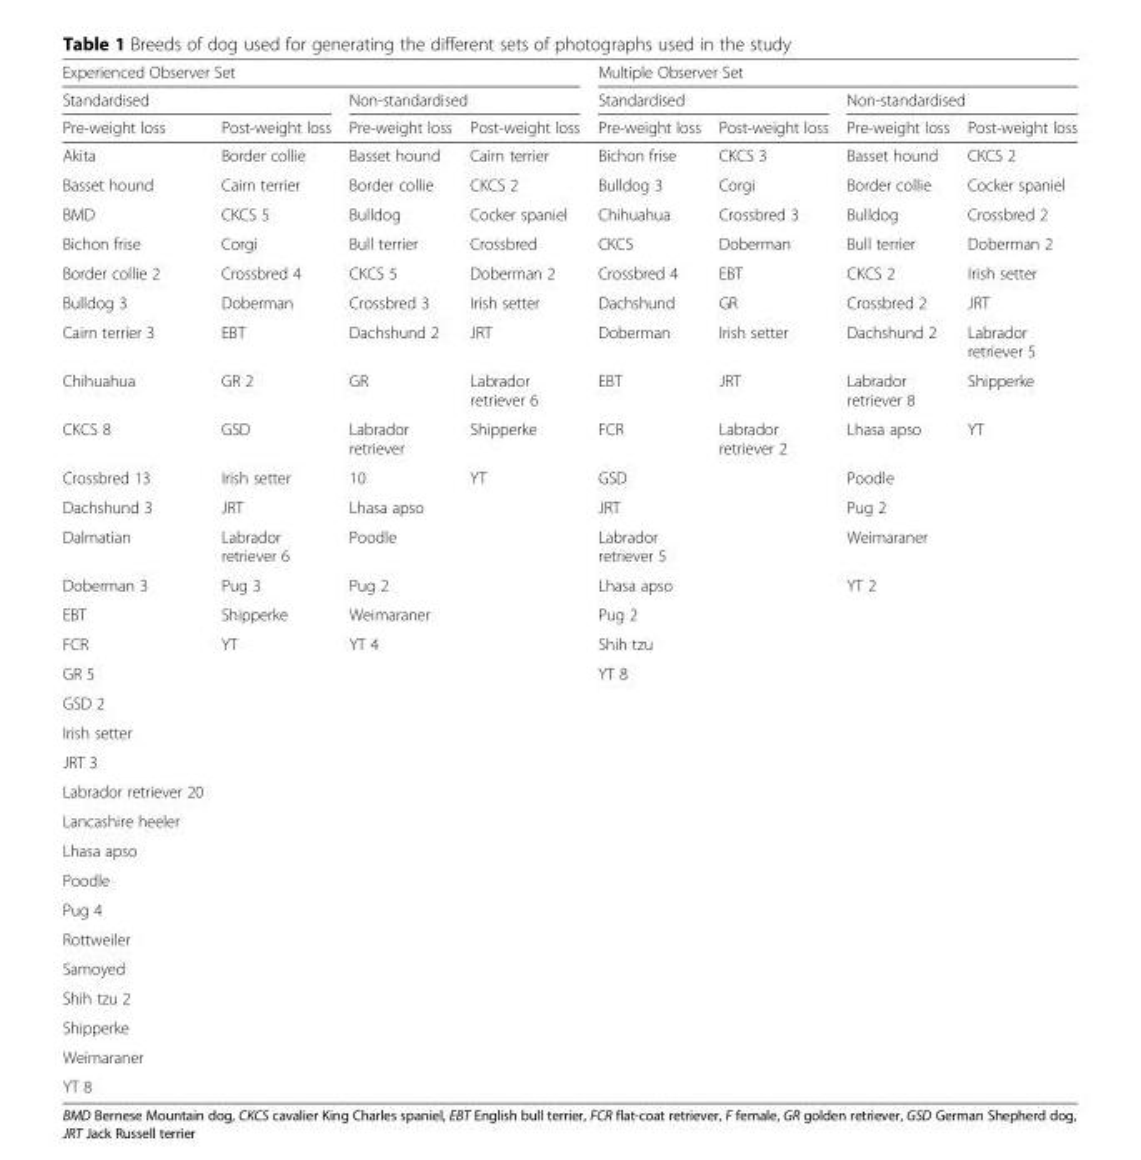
<table><thead><tr><td colspan="4">Experienced Observer Set</td><td colspan="4">Multiple Observer Set</td></tr><tr><td colspan="2">Standardised</td><td colspan="2">Non-standardised</td><td colspan="2">Standardised</td><td colspan="2">Non-standardised</td></tr><tr><td>Pre-weight loss</td><td>Post-weight loss</td><td>Pre-weight loss</td><td>Post-weight loss</td><td>Pre-weight loss</td><td>Post-weight loss</td><td>Pre-weight loss</td><td>Post-weight loss</td></tr></thead><tbody><tr><td>Akita</td><td>Border collie</td><td>Basset hound</td><td>Cairn terrier</td><td>Bichon frise</td><td>CKCS 3</td><td>Basset hound</td><td>CKCS 2</td></tr><tr><td>Basset hound</td><td>Cairn terrier</td><td>Border collie</td><td>CKCS 2</td><td>Bulldog 3</td><td>Corgi</td><td>Border collie</td><td>Cocker spaniel</td></tr><tr><td>BMD</td><td>CKCS 5</td><td>Bulldog</td><td>Cocker spaniel</td><td>Chihuahua</td><td>Crossbred 3</td><td>Bulldog</td><td>Crossbred 2</td></tr><tr><td>Bichon frise</td><td>Corgi</td><td>Bull terrier</td><td>Crossbred</td><td>CKCS</td><td>Doberman</td><td>Bull terrier</td><td>Doberman 2</td></tr><tr><td>Border collie 2</td><td>Crossbred 4</td><td>CKCS 5</td><td>Doberman 2</td><td>Crossbred 4</td><td>EBT</td><td>CKCS 2</td><td>Irish setter</td></tr><tr><td>Bulldog 3</td><td>Doberman</td><td>Crossbred 3</td><td>Irish setter</td><td>Dachshund</td><td>GR</td><td>Crossbred 2</td><td>JRT</td></tr><tr><td>Cairn terrier 3</td><td>EBT</td><td>Dachshund 2</td><td>JRT</td><td>Doberman</td><td>Irish setter</td><td>Dachshund 2</td><td>Labrador retriever 5</td></tr><tr><td>Chihuahua</td><td>GR 2</td><td>GR</td><td>Labrador retriever 6</td><td>EBT</td><td>JRT</td><td>Labrador retriever 8</td><td>Shipperke</td></tr><tr><td>CKCS 8</td><td>GSD</td><td>Labrador retriever</td><td>Shipperke</td><td>FCR</td><td>Labrador retriever 2</td><td>Lhasa apso</td><td rowspan="22">YT</td></tr><tr><td>Crossbred 13</td><td>Irish setter</td><td>10</td><td>YT</td><td>GSD</td><td rowspan="21"></td><td>Poodle</td></tr><tr><td>Dachshund 3</td><td>JRT</td><td>Lhasa apso</td><td rowspan="20"></td><td>JRT</td><td>Pug 2</td></tr><tr><td>Dalmatian</td><td>Labrador retriever 6</td><td>Poodle</td><td>Labrador retriever 5</td><td>Weimaraner</td></tr><tr><td>Doberman 3</td><td>Pug 3</td><td>Pug 2</td><td>Lhasa apso</td><td rowspan="18">YT 2</td></tr><tr><td>EBT</td><td>Shipperke</td><td>Weimaraner</td><td>Pug 2</td></tr><tr><td>FCR</td><td rowspan="16">YT</td><td rowspan="16">YT 4</td><td>Shih tzu</td></tr><tr><td>GR 5</td><td rowspan="15">YT 8</td></tr><tr><td>GSD 2</td></tr><tr><td>Irish setter</td></tr><tr><td>JRT 3</td></tr><tr><td>Labrador retriever 20</td></tr><tr><td>Lancashire heeler</td></tr><tr><td>Lhasa apso</td></tr><tr><td>Poodle</td></tr><tr><td>Pug 4</td></tr><tr><td>Rottweiler</td></tr><tr><td>Samoyed</td></tr><tr><td>Shih tzu 2</td></tr><tr><td>Shipperke</td></tr><tr><td>Weimaraner</td></tr><tr><td>YT 8</td></tr></tbody></table>